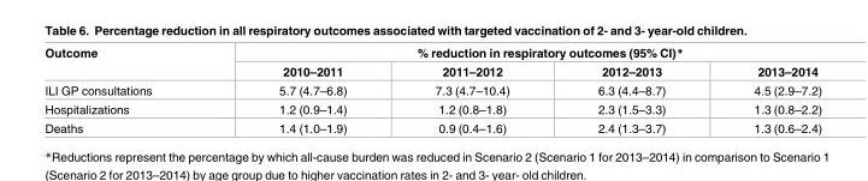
<table><thead><tr><td rowspan="2">Outcome</td><td colspan="4">% reduction in respiratory outcomes (95% CI)*</td></tr><tr><td>2010–2011</td><td>2011–2012</td><td>2012–2013</td><td>2013–2014</td></tr></thead><tbody><tr><td>ILI GP consultations</td><td>5.7 (4.7–6.8)</td><td>7.3 (4.7–10.4)</td><td>6.3 (4.4–8.7)</td><td>4.5 (2.9–7.2)</td></tr><tr><td>Hospitalizations</td><td>1.2 (0.9–1.4)</td><td>1.2 (0.8–1.8)</td><td>2.3 (1.5–3.3)</td><td>1.3 (0.8–2.2)</td></tr><tr><td>Deaths</td><td>1.4 (1.0–1.9)</td><td>0.9 (0.4–1.6)</td><td>2.4 (1.3–3.7)</td><td>1.3 (0.6–2.4)</td></tr></tbody></table>